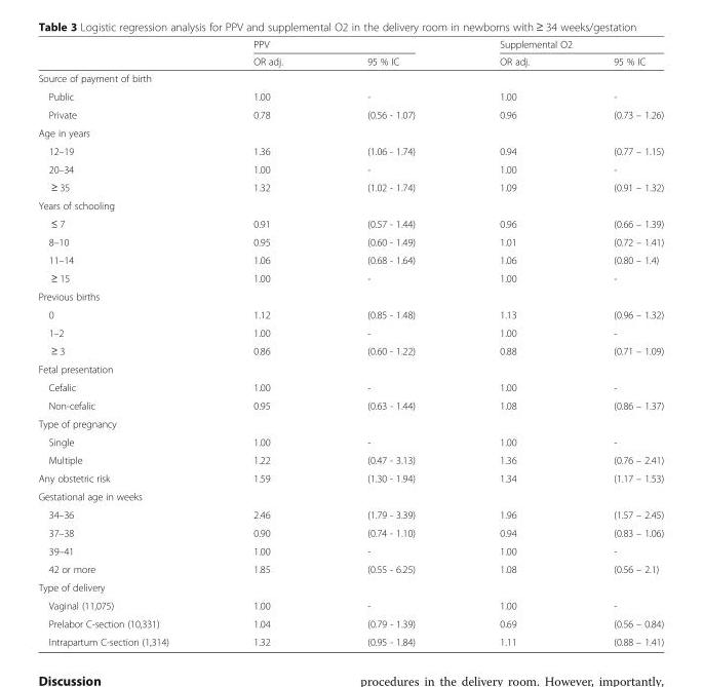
<table><thead><tr><td rowspan="2"></td><td colspan="2">PPV</td><td colspan="2">Supplemental O2</td></tr><tr><td>OR adj.</td><td>95 % IC</td><td>OR adj.</td><td>95 % IC</td></tr></thead><tbody><tr><td colspan="5">Source of payment of birth</td></tr><tr><td>Public</td><td>1.00</td><td>-</td><td>1.00</td><td>-</td></tr><tr><td>Private</td><td>0.78</td><td>(0.56 - 1.07)</td><td>0.96</td><td>(0.73 – 1.26)</td></tr><tr><td colspan="5">Age in years</td></tr><tr><td>12–19</td><td>1.36</td><td>(1.06 - 1.74)</td><td>0.94</td><td>(0.77 – 1.15)</td></tr><tr><td>20–34</td><td>1.00</td><td>-</td><td>1.00</td><td>-</td></tr><tr><td>≥ 35</td><td>1.32</td><td>(1.02 - 1.74)</td><td>1.09</td><td>(0.91 – 1.32)</td></tr><tr><td colspan="5">Years of schooling</td></tr><tr><td>≤ 7</td><td>0.91</td><td>(0.57 - 1.44)</td><td>0.96</td><td>(0.66 – 1.39)</td></tr><tr><td>8–10</td><td>0.95</td><td>(0.60 - 1.49)</td><td>1.01</td><td>(0.72 – 1.41)</td></tr><tr><td>11–14</td><td>1.06</td><td>(0.68 - 1.64)</td><td>1.06</td><td>(0.80 – 1.4)</td></tr><tr><td>≥ 15</td><td>1.00</td><td>-</td><td>1.00</td><td>-</td></tr><tr><td colspan="5">Previous births</td></tr><tr><td>0</td><td>1.12</td><td>(0.85 - 1.48)</td><td>1.13</td><td>(0.96 – 1.32)</td></tr><tr><td>1–2</td><td>1.00</td><td>-</td><td>1.00</td><td>-</td></tr><tr><td>≥ 3</td><td>0.86</td><td>(0.60 - 1.22)</td><td>0.88</td><td>(0.71 – 1.09)</td></tr><tr><td colspan="5">Fetal presentation</td></tr><tr><td>Cefalic</td><td>1.00</td><td>-</td><td>1.00</td><td>-</td></tr><tr><td>Non-cefalic</td><td>0.95</td><td>(0.63 - 1.44)</td><td>1.08</td><td>(0.86 – 1.37)</td></tr><tr><td colspan="5">Type of pregnancy</td></tr><tr><td>Single</td><td>1.00</td><td>-</td><td>1.00</td><td>-</td></tr><tr><td>Multiple</td><td>1.22</td><td>(0.47 - 3.13)</td><td>1.36</td><td>(0.76 – 2.41)</td></tr><tr><td>Any obstetric risk</td><td>1.59</td><td>(1.30 - 1.94)</td><td>1.34</td><td>(1.17 – 1.53)</td></tr><tr><td colspan="5">Gestational age in weeks</td></tr><tr><td>34–36</td><td>2.46</td><td>(1.79 - 3.39)</td><td>1.96</td><td>(1.57 – 2.45)</td></tr><tr><td>37–38</td><td>0.90</td><td>(0.74 - 1.10)</td><td>0.94</td><td>(0.83 – 1.06)</td></tr><tr><td>39–41</td><td>1.00</td><td>-</td><td>1.00</td><td>-</td></tr><tr><td>42 or more</td><td>1.85</td><td>(0.55 - 6.25)</td><td>1.08</td><td>(0.56 – 2.1)</td></tr><tr><td colspan="5">Type of delivery</td></tr><tr><td>Vaginal (11,075)</td><td>1.00</td><td>-</td><td>1.00</td><td>-</td></tr><tr><td>Prelabor C-section (10,331)</td><td>1.04</td><td>(0.79 - 1.39)</td><td>0.69</td><td>(0.56 – 0.84)</td></tr><tr><td>Intrapartum C-section (1,314)</td><td>1.32</td><td>(0.95 - 1.84)</td><td>1.11</td><td>(0.88 – 1.41)</td></tr></tbody></table>